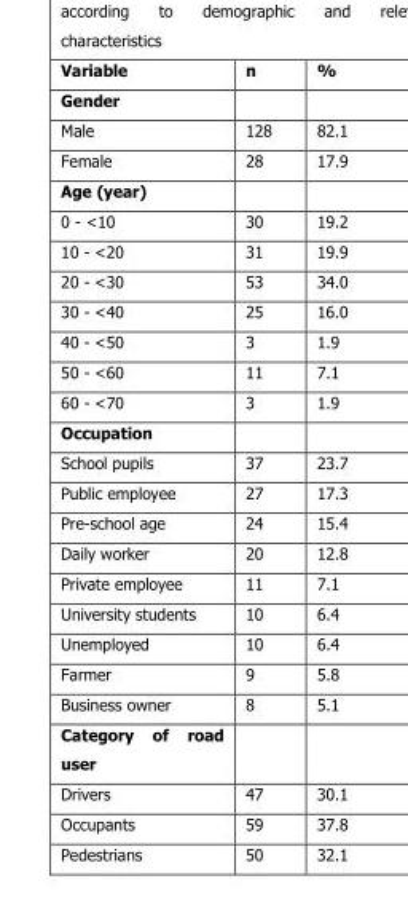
<table><thead><tr><td>Variable</td><td>n</td><td>%</td></tr></thead><tbody><tr><td colspan="3">Gender</td></tr><tr><td>Male</td><td>128</td><td>82.1</td></tr><tr><td>Female</td><td>28</td><td>17.9</td></tr><tr><td colspan="3">Age (year)</td></tr><tr><td>0 - &lt;10</td><td>30</td><td>19.2</td></tr><tr><td>10 - &lt;20</td><td>31</td><td>19.9</td></tr><tr><td>20 - &lt;30</td><td>53</td><td>34.0</td></tr><tr><td>30 - &lt;40</td><td>25</td><td>16.0</td></tr><tr><td>40 - &lt;50</td><td>3</td><td>1.9</td></tr><tr><td>50 - &lt;60</td><td>11</td><td>7.1</td></tr><tr><td>60 - &lt;70</td><td>3</td><td>1.9</td></tr><tr><td colspan="3">Occupation</td></tr><tr><td>School pupils</td><td>37</td><td>23.7</td></tr><tr><td>Public employee</td><td>27</td><td>17.3</td></tr><tr><td>Pre-school age</td><td>24</td><td>15.4</td></tr><tr><td>Daily worker</td><td>20</td><td>12.8</td></tr><tr><td>Private employee</td><td>11</td><td>7.1</td></tr><tr><td>University students</td><td>10</td><td>6.4</td></tr><tr><td>Unemployed</td><td>10</td><td>6.4</td></tr><tr><td>Farmer</td><td>9</td><td>5.8</td></tr><tr><td>Business owner</td><td>8</td><td>5.1</td></tr><tr><td colspan="3">Category of road user</td></tr><tr><td>Drivers</td><td>47</td><td>30.1</td></tr><tr><td>Occupants</td><td>59</td><td>37.8</td></tr><tr><td>Pedestrians</td><td>50</td><td>32.1</td></tr></tbody></table>